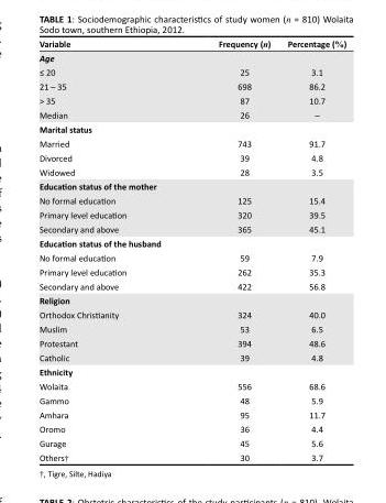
<table><thead><tr><td>Variable</td><td>Frequency (n)</td><td>Percentage (%)</td></tr></thead><tbody><tr><td colspan="3">Age</td></tr><tr><td>≤ 20</td><td>25</td><td>3.1</td></tr><tr><td>21 – 35</td><td>698</td><td>86.2</td></tr><tr><td>&gt; 35</td><td>87</td><td>10.7</td></tr><tr><td>Median</td><td>26</td><td>–</td></tr><tr><td colspan="3">Marital status</td></tr><tr><td>Married</td><td>743</td><td>91.7</td></tr><tr><td>Divorced</td><td>39</td><td>4.8</td></tr><tr><td>Widowed</td><td>28</td><td>3.5</td></tr><tr><td colspan="3">Education status of the mother</td></tr><tr><td>No formal education</td><td>125</td><td>15.4</td></tr><tr><td>Primary level education</td><td>320</td><td>39.5</td></tr><tr><td>Secondary and above</td><td>365</td><td>45.1</td></tr><tr><td colspan="3">Education status of the husband</td></tr><tr><td>No formal education</td><td>59</td><td>7.9</td></tr><tr><td>Primary level education</td><td>262</td><td>35.3</td></tr><tr><td>Secondary and above</td><td>422</td><td>56.8</td></tr><tr><td colspan="3">Religion</td></tr><tr><td>Orthodox Christianity</td><td>324</td><td>40.0</td></tr><tr><td>Muslim</td><td>53</td><td>6.5</td></tr><tr><td>Protestant</td><td>394</td><td>48.6</td></tr><tr><td>Catholic</td><td>39</td><td>4.8</td></tr><tr><td colspan="3">Ethnicity</td></tr><tr><td>Wolaita</td><td>556</td><td>68.6</td></tr><tr><td>Gammo</td><td>48</td><td>5.9</td></tr><tr><td>Amhara</td><td>95</td><td>11.7</td></tr><tr><td>Oromo</td><td>36</td><td>4.4</td></tr><tr><td>Gurage</td><td>45</td><td>5.6</td></tr><tr><td>Others†</td><td>30</td><td>3.7</td></tr></tbody></table>